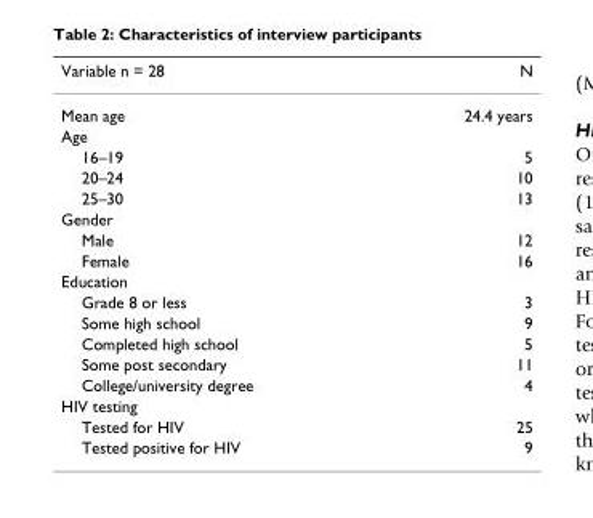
<table><thead><tr><td>Variable n = 28</td><td>N</td></tr></thead><tbody><tr><td>Mean age</td><td>24.4 years</td></tr><tr><td colspan="2">Age</td></tr><tr><td>16–19</td><td>5</td></tr><tr><td>20–24</td><td>10</td></tr><tr><td>25–30</td><td>13</td></tr><tr><td colspan="2">Gender</td></tr><tr><td>Male</td><td>12</td></tr><tr><td>Female</td><td>16</td></tr><tr><td colspan="2">Education</td></tr><tr><td>Grade 8 or less</td><td>3</td></tr><tr><td>Some high school</td><td>9</td></tr><tr><td>Completed high school</td><td>5</td></tr><tr><td>Some post secondary</td><td>11</td></tr><tr><td>College/university degree</td><td>4</td></tr><tr><td colspan="2">HIV testing</td></tr><tr><td>Tested for HIV</td><td>25</td></tr><tr><td>Tested positive for HIV</td><td>9</td></tr></tbody></table>